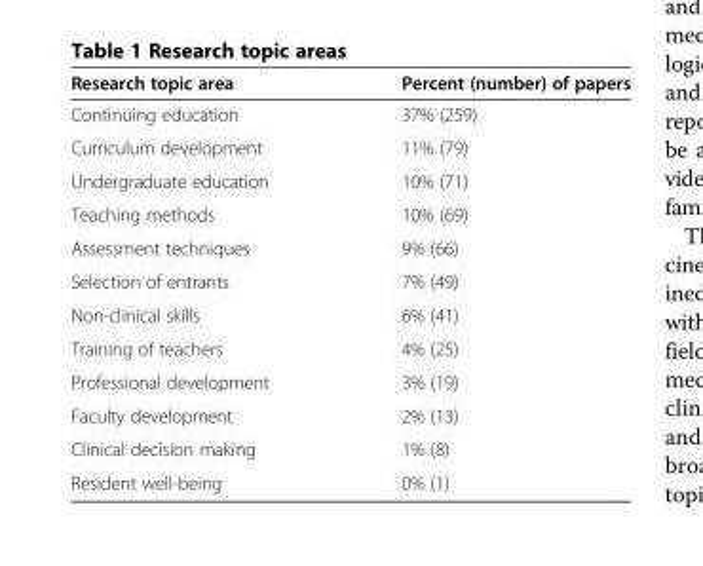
<table><thead><tr><td>Research topic area</td><td>Percent (number) of papers</td></tr></thead><tbody><tr><td>Continuing education</td><td>37% (259)</td></tr><tr><td>Curriculum development</td><td>11% (79)</td></tr><tr><td>Undergraduate education</td><td>10% (71)</td></tr><tr><td>Teaching methods</td><td>10% (69)</td></tr><tr><td>Assessment techniques</td><td>9% (66)</td></tr><tr><td>Selection of entrants</td><td>7% (49)</td></tr><tr><td>Non-clinical skills</td><td>6% (41)</td></tr><tr><td>Training of teachers</td><td>4% (25)</td></tr><tr><td>Professional development</td><td>3% (19)</td></tr><tr><td>Faculty development</td><td>2% (13)</td></tr><tr><td>Clinical decision making</td><td>1% (8)</td></tr><tr><td>Resident well-being</td><td>0% (1)</td></tr></tbody></table>